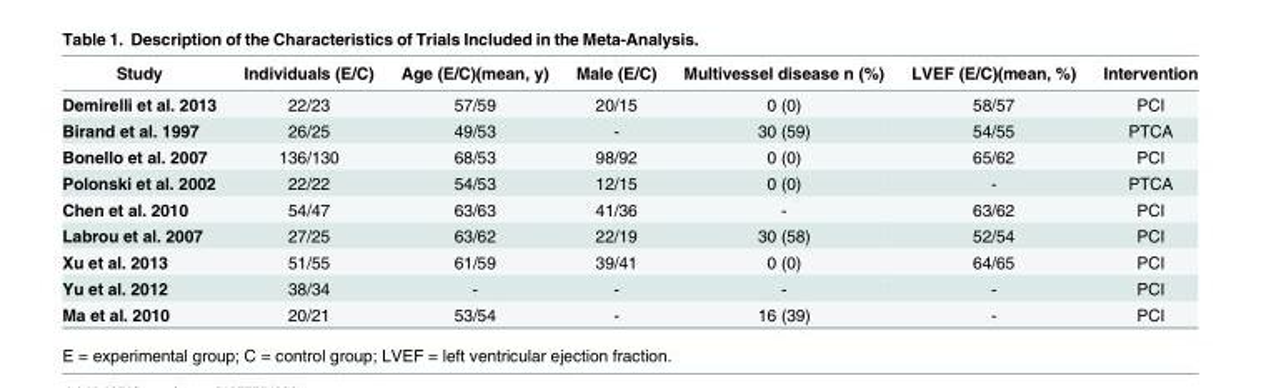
<table><thead><tr><td>Study</td><td>Individuals (E/C)</td><td>Age (E/C)(mean, y)</td><td>Male (E/C)</td><td>Multivessel disease n (%)</td><td>LVEF (E/C)(mean, %)</td><td>Intervention</td></tr></thead><tbody><tr><td>Demirelli et al. 2013</td><td>22/23</td><td>57/59</td><td>20/15</td><td>0 (0)</td><td>58/57</td><td>PCI</td></tr><tr><td>Birand et al. 1997</td><td>26/25</td><td>49/53</td><td>-</td><td>30 (59)</td><td>54/55</td><td>PTCA</td></tr><tr><td>Bonello et al. 2007</td><td>136/130</td><td>68/53</td><td>98/92</td><td>0 (0)</td><td>65/62</td><td>PCI</td></tr><tr><td>Polonski et al. 2002</td><td>22/22</td><td>54/53</td><td>12/15</td><td>0 (0)</td><td>-</td><td>PTCA</td></tr><tr><td>Chen et al. 2010</td><td>54/47</td><td>63/63</td><td>41/36</td><td>-</td><td>63/62</td><td>PCI</td></tr><tr><td>Labrou et al. 2007</td><td>27/25</td><td>63/62</td><td>22/19</td><td>30 (58)</td><td>52/54</td><td>PCI</td></tr><tr><td>Xu et al. 2013</td><td>51/55</td><td>61/59</td><td>39/41</td><td>0 (0)</td><td>64/65</td><td>PCI</td></tr><tr><td>Yu et al. 2012</td><td>38/34</td><td>-</td><td>-</td><td>-</td><td>-</td><td>PCI</td></tr><tr><td>Ma et al. 2010</td><td>20/21</td><td>53/54</td><td>-</td><td>16 (39)</td><td>-</td><td>PCI</td></tr></tbody></table>